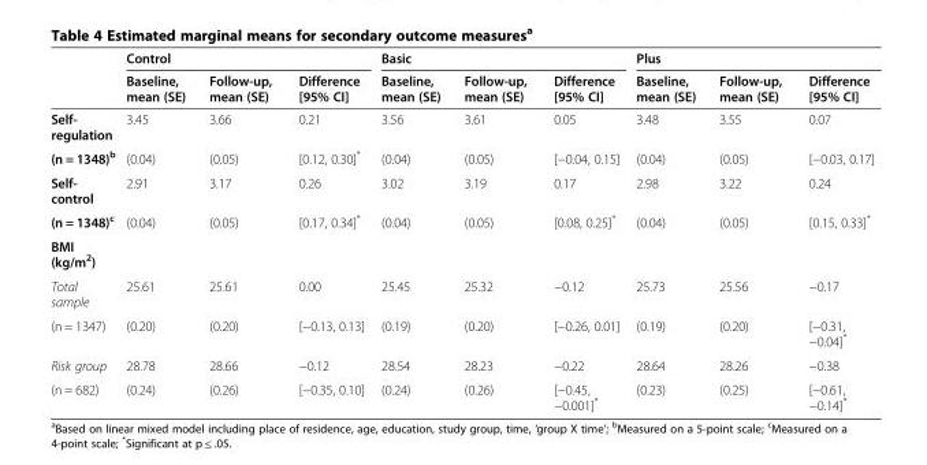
<table><thead><tr><td rowspan="2"></td><td colspan="3">Control</td><td colspan="3">Basic</td><td colspan="3">Plus</td></tr><tr><td>Baseline, mean (SE)</td><td>Follow-up, mean (SE)</td><td>Difference [95% CI]</td><td>Baseline, mean (SE)</td><td>Follow-up, mean (SE)</td><td>Difference [95% CI]</td><td>Baseline, mean (SE)</td><td>Follow-up, mean (SE)</td><td>Difference [95% CI]</td></tr></thead><tbody><tr><td>Self- regulation</td><td>3.45</td><td>3.66</td><td>0.21</td><td>3.56</td><td>3.61</td><td>0.05</td><td>3.48</td><td>3.55</td><td>0.07</td></tr><tr><td>(n = 1348)<sup>b</sup></td><td>(0.04)</td><td>(0.05)</td><td>[0.12, 0.30]*</td><td>(0.04)</td><td>(0.05)</td><td>[−0.04, 0.15]</td><td>(0.04)</td><td>(0.05)</td><td>[−0.03, 0.17]</td></tr><tr><td>Self- control</td><td>2.91</td><td>3.17</td><td>0.26</td><td>3.02</td><td>3.19</td><td>0.17</td><td>2.98</td><td>3.22</td><td>0.24</td></tr><tr><td>(n = 1348)<sup>c</sup></td><td>(0.04)</td><td>(0.05)</td><td>[0.17, 0.34]*</td><td>(0.04)</td><td>(0.05)</td><td>[0.08, 0.25]*</td><td>(0.04)</td><td>(0.05)</td><td>[0.15, 0.33]*</td></tr><tr><td colspan="10">BMI (kg/m<sup>2</sup>)</td></tr><tr><td>Total sample</td><td>25.61</td><td>25.61</td><td>0.00</td><td>25.45</td><td>25.32</td><td>−0.12</td><td>25.73</td><td>25.56</td><td>−0.17</td></tr><tr><td>(n = 1347)</td><td>(0.20)</td><td>(0.20)</td><td>[−0.13, 0.13]</td><td>(0.19)</td><td>(0.20)</td><td>[−0.26, 0.01]</td><td>(0.19)</td><td>(0.20)</td><td>[−0.31, −0.04]*</td></tr><tr><td>Risk group</td><td>28.78</td><td>28.66</td><td>−0.12</td><td>28.54</td><td>28.23</td><td>−0.22</td><td>28.64</td><td>28.26</td><td>−0.38</td></tr><tr><td>(n = 682)</td><td>(0.24)</td><td>(0.26)</td><td>[−0.35, 0.10]</td><td>(0.24)</td><td>(0.26)</td><td>[−0.45, −0.001]*</td><td>(0.23)</td><td>(0.25)</td><td>[−0.61, −0.14]*</td></tr></tbody></table>